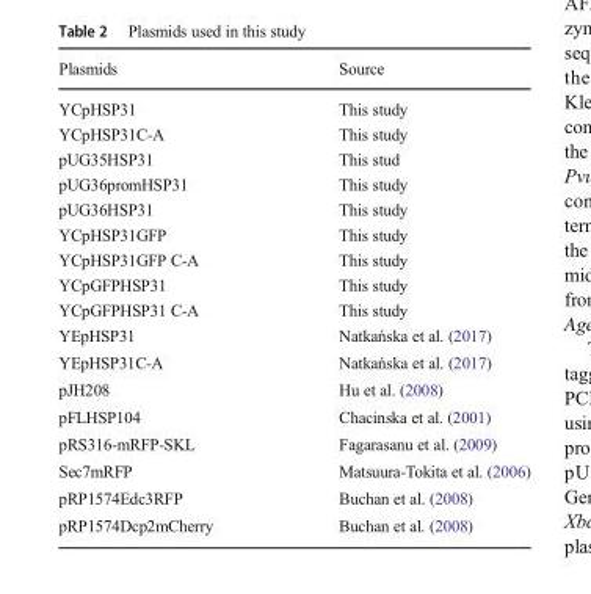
<table><thead><tr><td>Plasmids</td><td>Source</td></tr></thead><tbody><tr><td>YCpHSP31</td><td>This study</td></tr><tr><td>YCpHSP31C-A</td><td>This study</td></tr><tr><td>pUG35HSP31</td><td>This stud</td></tr><tr><td>pUG36promHSP31</td><td>This study</td></tr><tr><td>pUG36HSP31</td><td>This study</td></tr><tr><td>YCpHSP31GFP</td><td>This study</td></tr><tr><td>YCpHSP31GFP C-A</td><td>This study</td></tr><tr><td>YCpGFPHSP31</td><td>This study</td></tr><tr><td>YCpGFPHSP31 C-A</td><td>This study</td></tr><tr><td>YEpHSP31</td><td>Natkańska et al. (2017)</td></tr><tr><td>YEpHSP31C-A</td><td>Natkańska et al. (2017)</td></tr><tr><td>pJH208</td><td>Hu et al. (2008)</td></tr><tr><td>pFLHSP104</td><td>Chacinska et al. (2001)</td></tr><tr><td>pRS316-mRFP-SKL</td><td>Fagarasanu et al. (2009)</td></tr><tr><td>Sec7mRFP</td><td>Matsuura-Tokita et al. (2006)</td></tr><tr><td>pRP1574Edc3RFP</td><td>Buchan et al. (2008)</td></tr><tr><td>pRP1574Dcp2mCherry</td><td>Buchan et al. (2008)</td></tr></tbody></table>